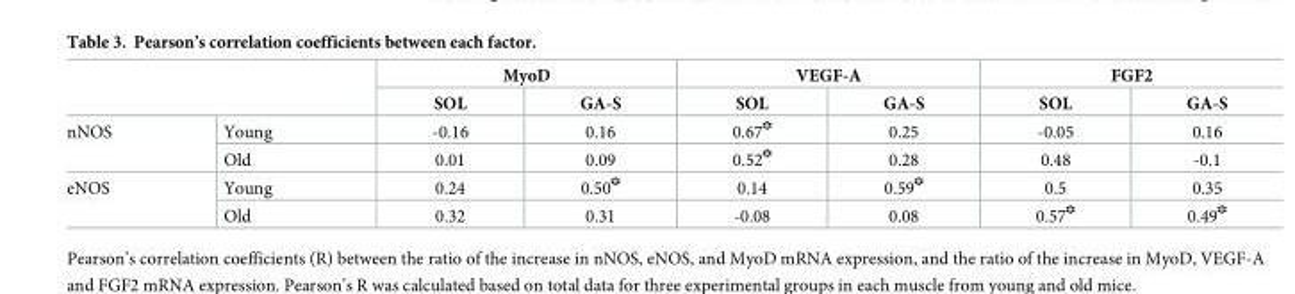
<table><thead><tr><td rowspan="2"></td><td rowspan="2"></td><td colspan="2">MyoD</td><td colspan="2">VEGF-A</td><td colspan="2">FGF2</td></tr><tr><td>SOL</td><td>GA-S</td><td>SOL</td><td>GA-S</td><td>SOL</td><td>GA-S</td></tr></thead><tbody><tr><td rowspan="2">nNOS</td><td>Young</td><td>-0.16</td><td>0.16</td><td>0.67<sup>✽</sup></td><td>0.25</td><td>-0.05</td><td>0.16</td></tr><tr><td>Old</td><td>0.01</td><td>0.09</td><td>0.52<sup>✽</sup></td><td>0.28</td><td>0.48</td><td>-0.1</td></tr><tr><td rowspan="2">eNOS</td><td>Young</td><td>0.24</td><td>0.50<sup>✽</sup></td><td>0.14</td><td>0.59<sup>✽</sup></td><td>0.5</td><td>0.35</td></tr><tr><td>Old</td><td>0.32</td><td>0.31</td><td>-0.08</td><td>0.08</td><td>0.57<sup>✽</sup></td><td>0.49<sup>✽</sup></td></tr></tbody></table>